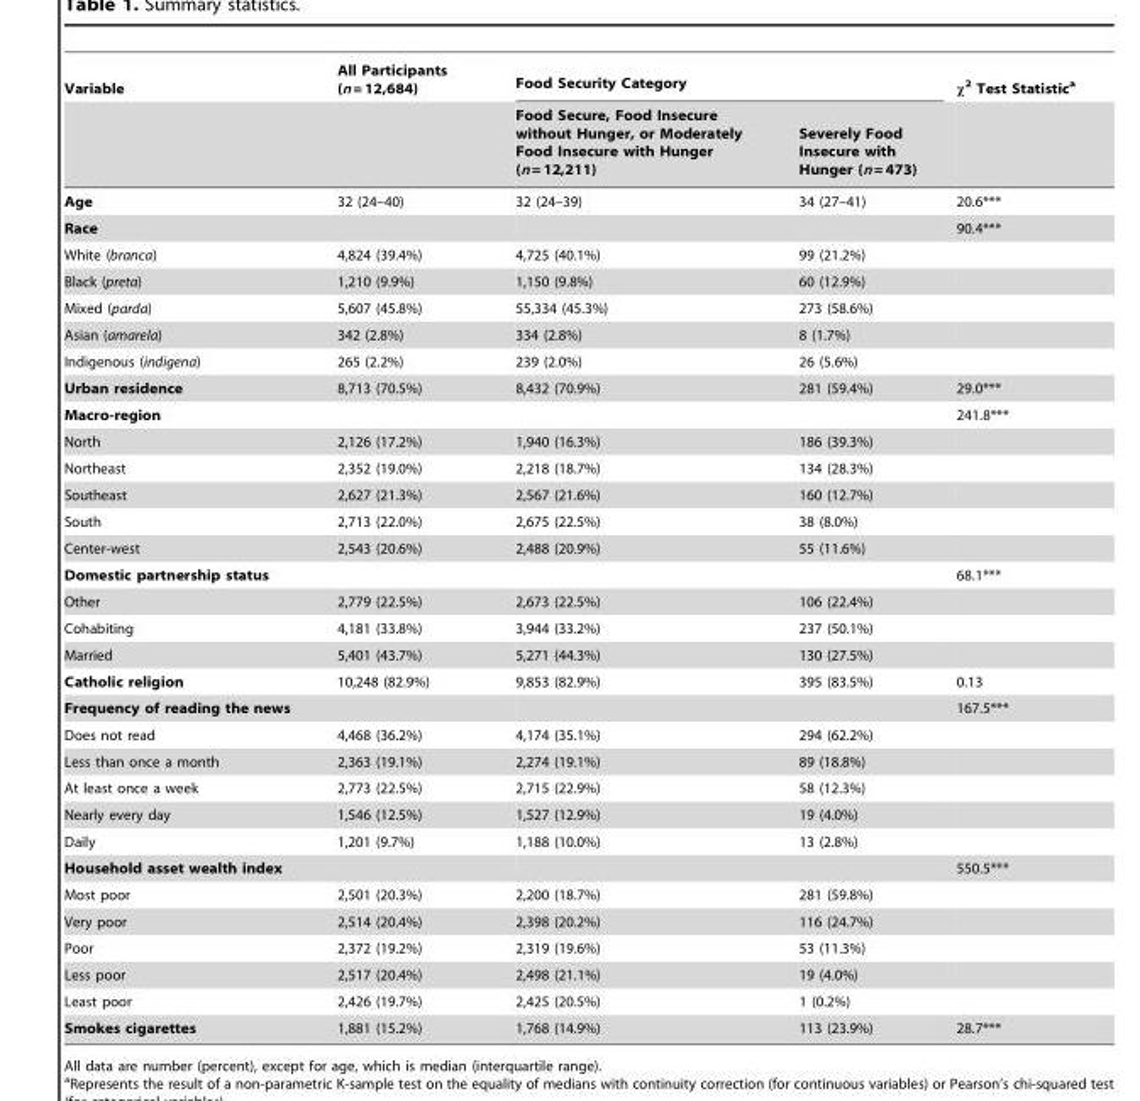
<table><thead><tr><td rowspan="2">Variable</td><td rowspan="2">All Participants (n = 12,684)</td><td colspan="2">Food Security Category</td><td rowspan="2">χ<sup>2</sup> Test Statistic<sup>a</sup></td></tr><tr><td>Food Secure, Food Insecure without Hunger, or Moderately Food Insecure with Hunger (n = 12,211)</td><td>Severely Food Insecure with Hunger (n = 473)</td></tr></thead><tbody><tr><td>Age</td><td>32 (24–40)</td><td>32 (24–39)</td><td>34 (27–41)</td><td>20.6***</td></tr><tr><td>Race</td><td></td><td></td><td></td><td>90.4***</td></tr><tr><td>White (branca)</td><td>4,824 (39.4%)</td><td>4,725 (40.1%)</td><td>99 (21.2%)</td><td></td></tr><tr><td>Black (preta)</td><td>1,210 (9.9%)</td><td>1,150 (9.8%)</td><td>60 (12.9%)</td><td></td></tr><tr><td>Mixed (parda)</td><td>5,607 (45.8%)</td><td>55,334 (45.3%)</td><td>273 (58.6%)</td><td></td></tr><tr><td>Asian (amarela)</td><td>342 (2.8%)</td><td>334 (2.8%)</td><td>8 (1.7%)</td><td></td></tr><tr><td>Indigenous (indigena)</td><td>265 (2.2%)</td><td>239 (2.0%)</td><td>26 (5.6%)</td><td></td></tr><tr><td>Urban residence</td><td>8,713 (70.5%)</td><td>8,432 (70.9%)</td><td>281 (59.4%)</td><td>29.0***</td></tr><tr><td>Macro-region</td><td></td><td></td><td></td><td>241.8***</td></tr><tr><td>North</td><td>2,126 (17.2%)</td><td>1,940 (16.3%)</td><td>186 (39.3%)</td><td></td></tr><tr><td>Northeast</td><td>2,352 (19.0%)</td><td>2,218 (18.7%)</td><td>134 (28.3%)</td><td></td></tr><tr><td>Southeast</td><td>2,627 (21.3%)</td><td>2,567 (21.6%)</td><td>160 (12.7%)</td><td></td></tr><tr><td>South</td><td>2,713 (22.0%)</td><td>2,675 (22.5%)</td><td>38 (8.0%)</td><td></td></tr><tr><td>Center-west</td><td>2,543 (20.6%)</td><td>2,488 (20.9%)</td><td>55 (11.6%)</td><td></td></tr><tr><td>Domestic partnership status</td><td></td><td></td><td></td><td>68.1***</td></tr><tr><td>Other</td><td>2,779 (22.5%)</td><td>2,673 (22.5%)</td><td>106 (22.4%)</td><td></td></tr><tr><td>Cohabiting</td><td>4,181 (33.8%)</td><td>3,944 (33.2%)</td><td>237 (50.1%)</td><td></td></tr><tr><td>Married</td><td>5,401 (43.7%)</td><td>5,271 (44.3%)</td><td>130 (27.5%)</td><td></td></tr><tr><td>Catholic religion</td><td>10,248 (82.9%)</td><td>9,853 (82.9%)</td><td>395 (83.5%)</td><td>0.13</td></tr><tr><td>Frequency of reading the news</td><td></td><td></td><td></td><td>167.5***</td></tr><tr><td>Does not read</td><td>4,468 (36.2%)</td><td>4,174 (35.1%)</td><td>294 (62.2%)</td><td></td></tr><tr><td>Less than once a month</td><td>2,363 (19.1%)</td><td>2,274 (19.1%)</td><td>89 (18.8%)</td><td></td></tr><tr><td>At least once a week</td><td>2,773 (22.5%)</td><td>2,715 (22.9%)</td><td>58 (12.3%)</td><td></td></tr><tr><td>Nearly every day</td><td>1,546 (12.5%)</td><td>1,527 (12.9%)</td><td>19 (4.0%)</td><td></td></tr><tr><td>Daily</td><td>1,201 (9.7%)</td><td>1,188 (10.0%)</td><td>13 (2.8%)</td><td></td></tr><tr><td>Household asset wealth index</td><td></td><td></td><td></td><td>550.5***</td></tr><tr><td>Most poor</td><td>2,501 (20.3%)</td><td>2,200 (18.7%)</td><td>281 (59.8%)</td><td></td></tr><tr><td>Very poor</td><td>2,514 (20.4%)</td><td>2,398 (20.2%)</td><td>116 (24.7%)</td><td></td></tr><tr><td>Poor</td><td>2,372 (19.2%)</td><td>2,319 (19.6%)</td><td>53 (11.3%)</td><td></td></tr><tr><td>Less poor</td><td>2,517 (20.4%)</td><td>2,498 (21.1%)</td><td>19 (4.0%)</td><td></td></tr><tr><td>Least poor</td><td>2,426 (19.7%)</td><td>2,425 (20.5%)</td><td>1 (0.2%)</td><td></td></tr><tr><td>Smokes cigarettes</td><td>1,881 (15.2%)</td><td>1,768 (14.9%)</td><td>113 (23.9%)</td><td>28.7***</td></tr></tbody></table>